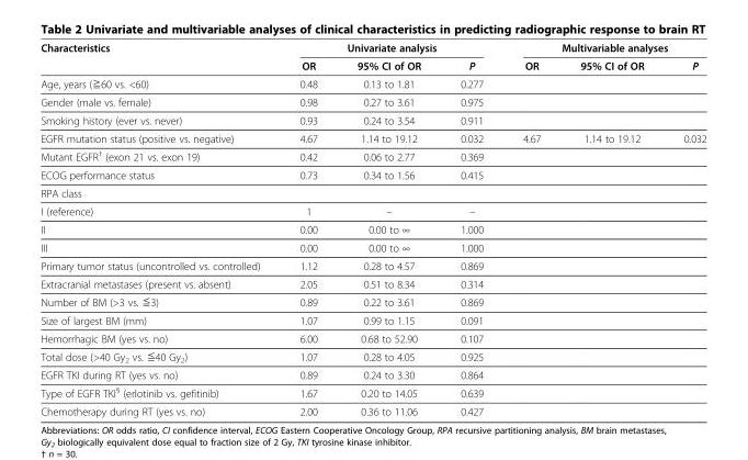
<table><thead><tr><td rowspan="2">Characteristics</td><td colspan="3">Univariate analysis</td><td colspan="3">Multivariable analyses</td></tr><tr><td>OR</td><td>95% CI of OR</td><td>P</td><td>OR</td><td>95% CI of OR</td><td>P</td></tr></thead><tbody><tr><td>Age, years (≧60 vs. &lt;60)</td><td>0.48</td><td>0.13 to 1.81</td><td>0.277</td><td></td><td></td><td></td></tr><tr><td>Gender (male vs. female)</td><td>0.98</td><td>0.27 to 3.61</td><td>0.975</td><td></td><td></td><td></td></tr><tr><td>Smoking history (ever vs. never)</td><td>0.93</td><td>0.24 to 3.54</td><td>0.911</td><td></td><td></td><td></td></tr><tr><td>EGFR mutation status (positive vs. negative)</td><td>4.67</td><td>1.14 to 19.12</td><td>0.032</td><td>4.67</td><td>1.14 to 19.12</td><td>0.032</td></tr><tr><td>Mutant EGFR<sup>†</sup> (exon 21 vs. exon 19)</td><td>0.42</td><td>0.06 to 2.77</td><td>0.369</td><td></td><td></td><td></td></tr><tr><td>ECOG performance status</td><td>0.73</td><td>0.34 to 1.56</td><td>0.415</td><td></td><td></td><td></td></tr><tr><td colspan="7">RPA class</td></tr><tr><td>I (reference)</td><td>1</td><td>–</td><td>–</td><td></td><td></td><td></td></tr><tr><td>II</td><td>0.00</td><td>0.00 to ∞</td><td>1.000</td><td></td><td></td><td></td></tr><tr><td>III</td><td>0.00</td><td>0.00 to ∞</td><td>1.000</td><td></td><td></td><td></td></tr><tr><td>Primary tumor status (uncontrolled vs. controlled)</td><td>1.12</td><td>0.28 to 4.57</td><td>0.869</td><td></td><td></td><td></td></tr><tr><td>Extracranial metastases (present vs. absent)</td><td>2.05</td><td>0.51 to 8.34</td><td>0.314</td><td></td><td></td><td></td></tr><tr><td>Number of BM (&gt;3 vs. ≦3)</td><td>0.89</td><td>0.22 to 3.61</td><td>0.869</td><td></td><td></td><td></td></tr><tr><td>Size of largest BM (mm)</td><td>1.07</td><td>0.99 to 1.15</td><td>0.091</td><td></td><td></td><td></td></tr><tr><td>Hemorrhagic BM (yes vs. no)</td><td>6.00</td><td>0.68 to 52.90</td><td>0.107</td><td></td><td></td><td></td></tr><tr><td>Total dose (&gt;40 Gy<sub>2</sub> vs. ≦40 Gy<sub>2</sub>)</td><td>1.07</td><td>0.28 to 4.05</td><td>0.925</td><td></td><td></td><td></td></tr><tr><td>EGFR TKI during RT (yes vs. no)</td><td>0.89</td><td>0.24 to 3.30</td><td>0.864</td><td></td><td></td><td></td></tr><tr><td>Type of EGFR TKI<sup>§</sup> (erlotinib vs. gefitinib)</td><td>1.67</td><td>0.20 to 14.05</td><td>0.639</td><td></td><td></td><td></td></tr><tr><td>Chemotherapy during RT (yes vs. no)</td><td>2.00</td><td>0.36 to 11.06</td><td>0.427</td><td></td><td></td><td></td></tr></tbody></table>